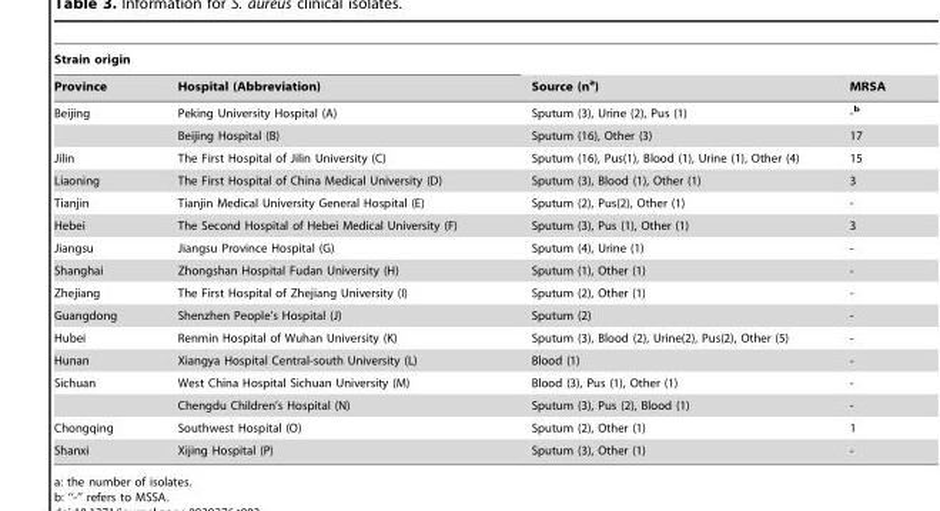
<table><thead><tr><td colspan="2">Strain origin</td><td rowspan="2">Source (n<sup>a</sup>)</td><td rowspan="2">MRSA</td></tr><tr><td>Province</td><td>Hospital (Abbreviation)</td></tr></thead><tbody><tr><td rowspan="2">Beijing</td><td>Peking University Hospital (A)</td><td>Sputum (3), Urine (2), Pus (1)</td><td>-<sup>b</sup></td></tr><tr><td>Beijing Hospital (B)</td><td>Sputum (16), Other (3)</td><td>17</td></tr><tr><td>Jilin</td><td>The First Hospital of Jilin University (C)</td><td>Sputum (16), Pus(1), Blood (1), Urine (1), Other (4)</td><td>15</td></tr><tr><td>Liaoning</td><td>The First Hospital of China Medical University (D)</td><td>Sputum (3), Blood (1), Other (1)</td><td>3</td></tr><tr><td>Tianjin</td><td>Tianjin Medical University General Hospital (E)</td><td>Sputum (2), Pus(2), Other (1)</td><td>-</td></tr><tr><td>Hebei</td><td>The Second Hospital of Hebei Medical University (F)</td><td>Sputum (3), Pus (1), Other (1)</td><td>3</td></tr><tr><td>Jiangsu</td><td>Jiangsu Province Hospital (G)</td><td>Sputum (4), Urine (1)</td><td>-</td></tr><tr><td>Shanghai</td><td>Zhongshan Hospital Fudan University (H)</td><td>Sputum (1), Other (1)</td><td>-</td></tr><tr><td>Zhejiang</td><td>The First Hospital of Zhejiang University (I)</td><td>Sputum (2), Other (1)</td><td>-</td></tr><tr><td>Guangdong</td><td>Shenzhen People’s Hospital (J)</td><td>Sputum (2)</td><td>-</td></tr><tr><td>Hubei</td><td>Renmin Hospital of Wuhan University (K)</td><td>Sputum (3), Blood (2), Urine(2), Pus(2), Other (5)</td><td>-</td></tr><tr><td>Hunan</td><td>Xiangya Hospital Central-south University (L)</td><td>Blood (1)</td><td>-</td></tr><tr><td rowspan="2">Sichuan</td><td>West China Hospital Sichuan University (M)</td><td>Blood (3), Pus (1), Other (1)</td><td>-</td></tr><tr><td>Chengdu Children’s Hospital (N)</td><td>Sputum (3), Pus (2), Blood (1)</td><td>-</td></tr><tr><td>Chongqing</td><td>Southwest Hospital (O)</td><td>Sputum (2), Other (1)</td><td>1</td></tr><tr><td>Shanxi</td><td>Xijing Hospital (P)</td><td>Sputum (3), Other (1)</td><td>-</td></tr></tbody></table>